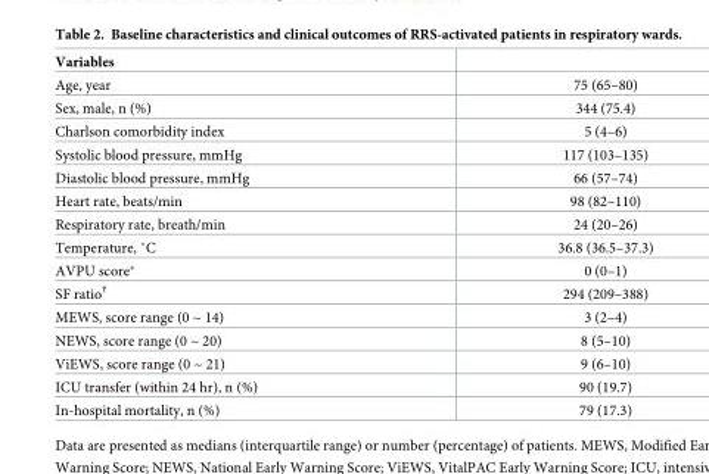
<table><thead><tr><td>Variables</td><td></td></tr></thead><tbody><tr><td>Age, year</td><td>75 (65–80)</td></tr><tr><td>Sex, male, n (%)</td><td>344 (75.4)</td></tr><tr><td>Charlson comorbidity index</td><td>5 (4–6)</td></tr><tr><td>Systolic blood pressure, mmHg</td><td>117 (103–135)</td></tr><tr><td>Diastolic blood pressure, mmHg</td><td>66 (57–74)</td></tr><tr><td>Heart rate, beats/min</td><td>98 (82–110)</td></tr><tr><td>Respiratory rate, breath/min</td><td>24 (20–26)</td></tr><tr><td>Temperature, ˚C</td><td>36.8 (36.5–37.3)</td></tr><tr><td>AVPU score*</td><td>0 (0–1)</td></tr><tr><td>SF ratio<sup>†</sup></td><td>294 (209–388)</td></tr><tr><td>MEWS, score range (0 ~ 14)</td><td>3 (2–4)</td></tr><tr><td>NEWS, score range (0 ~ 20)</td><td>8 (5–10)</td></tr><tr><td>ViEWS, score range (0 ~ 21)</td><td>9 (6–10)</td></tr><tr><td>ICU transfer (within 24 hr), n (%)</td><td>90 (19.7)</td></tr><tr><td>In-hospital mortality, n (%)</td><td>79 (17.3)</td></tr></tbody></table>